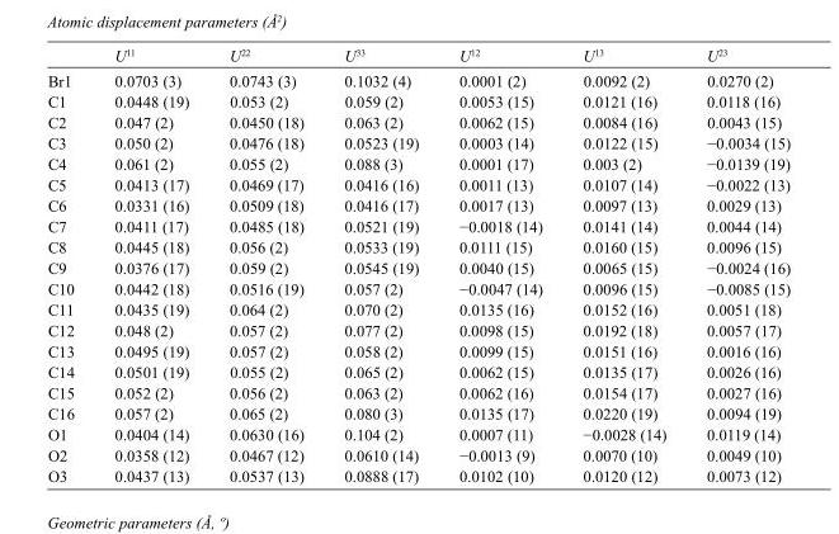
<table><thead><tr><td></td><td>U<sup>11</sup></td><td>U<sup>22</sup></td><td>U<sup>33</sup></td><td>U<sup>12</sup></td><td>U<sup>13</sup></td><td>U<sup>23</sup></td></tr></thead><tbody><tr><td>Br1</td><td>0.0703 (3)</td><td>0.0743 (3)</td><td>0.1032 (4)</td><td>0.0001 (2)</td><td>0.0092 (2)</td><td>0.0270 (2)</td></tr><tr><td>C1</td><td>0.0448 (19)</td><td>0.053 (2)</td><td>0.059 (2)</td><td>0.0053 (15)</td><td>0.0121 (16)</td><td>0.0118 (16)</td></tr><tr><td>C2</td><td>0.047 (2)</td><td>0.0450 (18)</td><td>0.063 (2)</td><td>0.0062 (15)</td><td>0.0084 (16)</td><td>0.0043 (15)</td></tr><tr><td>C3</td><td>0.050 (2)</td><td>0.0476 (18)</td><td>0.0523 (19)</td><td>0.0003 (14)</td><td>0.0122 (15)</td><td>−0.0034 (15)</td></tr><tr><td>C4</td><td>0.061 (2)</td><td>0.055 (2)</td><td>0.088 (3)</td><td>0.0001 (17)</td><td>0.003 (2)</td><td>−0.0139 (19)</td></tr><tr><td>C5</td><td>0.0413 (17)</td><td>0.0469 (17)</td><td>0.0416 (16)</td><td>0.0011 (13)</td><td>0.0107 (14)</td><td>−0.0022 (13)</td></tr><tr><td>C6</td><td>0.0331 (16)</td><td>0.0509 (18)</td><td>0.0416 (17)</td><td>0.0017 (13)</td><td>0.0097 (13)</td><td>0.0029 (13)</td></tr><tr><td>C7</td><td>0.0411 (17)</td><td>0.0485 (18)</td><td>0.0521 (19)</td><td>−0.0018 (14)</td><td>0.0141 (14)</td><td>0.0044 (14)</td></tr><tr><td>C8</td><td>0.0445 (18)</td><td>0.056 (2)</td><td>0.0533 (19)</td><td>0.0111 (15)</td><td>0.0160 (15)</td><td>0.0096 (15)</td></tr><tr><td>C9</td><td>0.0376 (17)</td><td>0.059 (2)</td><td>0.0545 (19)</td><td>0.0040 (15)</td><td>0.0065 (15)</td><td>−0.0024 (16)</td></tr><tr><td>C10</td><td>0.0442 (18)</td><td>0.0516 (19)</td><td>0.057 (2)</td><td>−0.0047 (14)</td><td>0.0096 (15)</td><td>−0.0085 (15)</td></tr><tr><td>C11</td><td>0.0435 (19)</td><td>0.064 (2)</td><td>0.070 (2)</td><td>0.0135 (16)</td><td>0.0152 (16)</td><td>0.0051 (18)</td></tr><tr><td>C12</td><td>0.048 (2)</td><td>0.057 (2)</td><td>0.077 (2)</td><td>0.0098 (15)</td><td>0.0192 (18)</td><td>0.0057 (17)</td></tr><tr><td>C13</td><td>0.0495 (19)</td><td>0.057 (2)</td><td>0.058 (2)</td><td>0.0099 (15)</td><td>0.0151 (16)</td><td>0.0016 (16)</td></tr><tr><td>C14</td><td>0.0501 (19)</td><td>0.055 (2)</td><td>0.065 (2)</td><td>0.0062 (15)</td><td>0.0135 (17)</td><td>0.0026 (16)</td></tr><tr><td>C15</td><td>0.052 (2)</td><td>0.056 (2)</td><td>0.063 (2)</td><td>0.0062 (16)</td><td>0.0154 (17)</td><td>0.0027 (16)</td></tr><tr><td>C16</td><td>0.057 (2)</td><td>0.065 (2)</td><td>0.080 (3)</td><td>0.0135 (17)</td><td>0.0220 (19)</td><td>0.0094 (19)</td></tr><tr><td>O1</td><td>0.0404 (14)</td><td>0.0630 (16)</td><td>0.104 (2)</td><td>0.0007 (11)</td><td>−0.0028 (14)</td><td>0.0119 (14)</td></tr><tr><td>O2</td><td>0.0358 (12)</td><td>0.0467 (12)</td><td>0.0610 (14)</td><td>−0.0013 (9)</td><td>0.0070 (10)</td><td>0.0049 (10)</td></tr><tr><td>O3</td><td>0.0437 (13)</td><td>0.0537 (13)</td><td>0.0888 (17)</td><td>0.0102 (10)</td><td>0.0120 (12)</td><td>0.0073 (12)</td></tr></tbody></table>